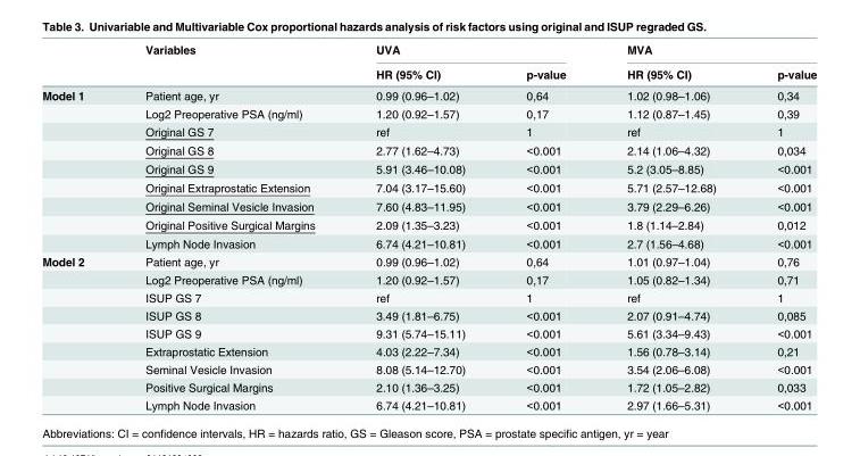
<table><thead><tr><td rowspan="2"></td><td rowspan="2">Variables</td><td colspan="2">UVA</td><td colspan="2">MVA</td></tr><tr><td>HR (95% CI)</td><td>p-value</td><td>HR (95% CI)</td><td>p-value</td></tr></thead><tbody><tr><td rowspan="9">Model 1</td><td>Patient age, yr</td><td>0.99 (0.96–1.02)</td><td>0,64</td><td>1.02 (0.98–1.06)</td><td>0,34</td></tr><tr><td>Log2 Preoperative PSA (ng/ml)</td><td>1.20 (0.92–1.57)</td><td>0,17</td><td>1.12 (0.87–1.45)</td><td>0,39</td></tr><tr><td>Original GS 7</td><td>ref</td><td>1</td><td>ref</td><td>1</td></tr><tr><td>Original GS 8</td><td>2.77 (1.62–4.73)</td><td>&lt;0.001</td><td>2.14 (1.06–4.32)</td><td>0,034</td></tr><tr><td>Original GS 9</td><td>5.91 (3.46–10.08)</td><td>&lt;0.001</td><td>5.2 (3.05–8.85)</td><td>&lt;0.001</td></tr><tr><td>Original Extraprostatic Extension</td><td>7.04 (3.17–15.60)</td><td>&lt;0.001</td><td>5.71 (2.57–12.68)</td><td>&lt;0.001</td></tr><tr><td>Original Seminal Vesicle Invasion</td><td>7.60 (4.83–11.95)</td><td>&lt;0.001</td><td>3.79 (2.29–6.26)</td><td>&lt;0.001</td></tr><tr><td>Original Positive Surgical Margins</td><td>2.09 (1.35–3.23)</td><td>&lt;0.001</td><td>1.8 (1.14–2.84)</td><td>0,012</td></tr><tr><td>Lymph Node Invasion</td><td>6.74 (4.21–10.81)</td><td>&lt;0.001</td><td>2.7 (1.56–4.68)</td><td>&lt;0.001</td></tr><tr><td rowspan="9">Model 2</td><td>Patient age, yr</td><td>0.99 (0.96–1.02)</td><td>0,64</td><td>1.01 (0.97–1.04)</td><td>0,76</td></tr><tr><td>Log2 Preoperative PSA (ng/ml)</td><td>1.20 (0.92–1.57)</td><td>0,17</td><td>1.05 (0.82–1.34)</td><td>0,71</td></tr><tr><td>ISUP GS 7</td><td>ref</td><td>1</td><td>ref</td><td>1</td></tr><tr><td>ISUP GS 8</td><td>3.49 (1.81–6.75)</td><td>&lt;0.001</td><td>2.07 (0.91–4.74)</td><td>0,085</td></tr><tr><td>ISUP GS 9</td><td>9.31 (5.74–15.11)</td><td>&lt;0.001</td><td>5.61 (3.34–9.43)</td><td>&lt;0.001</td></tr><tr><td>Extraprostatic Extension</td><td>4.03 (2.22–7.34)</td><td>&lt;0.001</td><td>1.56 (0.78–3.14)</td><td>0,21</td></tr><tr><td>Seminal Vesicle Invasion</td><td>8.08 (5.14–12.70)</td><td>&lt;0.001</td><td>3.54 (2.06–6.08)</td><td>&lt;0.001</td></tr><tr><td>Positive Surgical Margins</td><td>2.10 (1.36–3.25)</td><td>&lt;0.001</td><td>1.72 (1.05–2.82)</td><td>0,033</td></tr><tr><td>Lymph Node Invasion</td><td>6.74 (4.21–10.81)</td><td>&lt;0.001</td><td>2.97 (1.66–5.31)</td><td>&lt;0.001</td></tr></tbody></table>